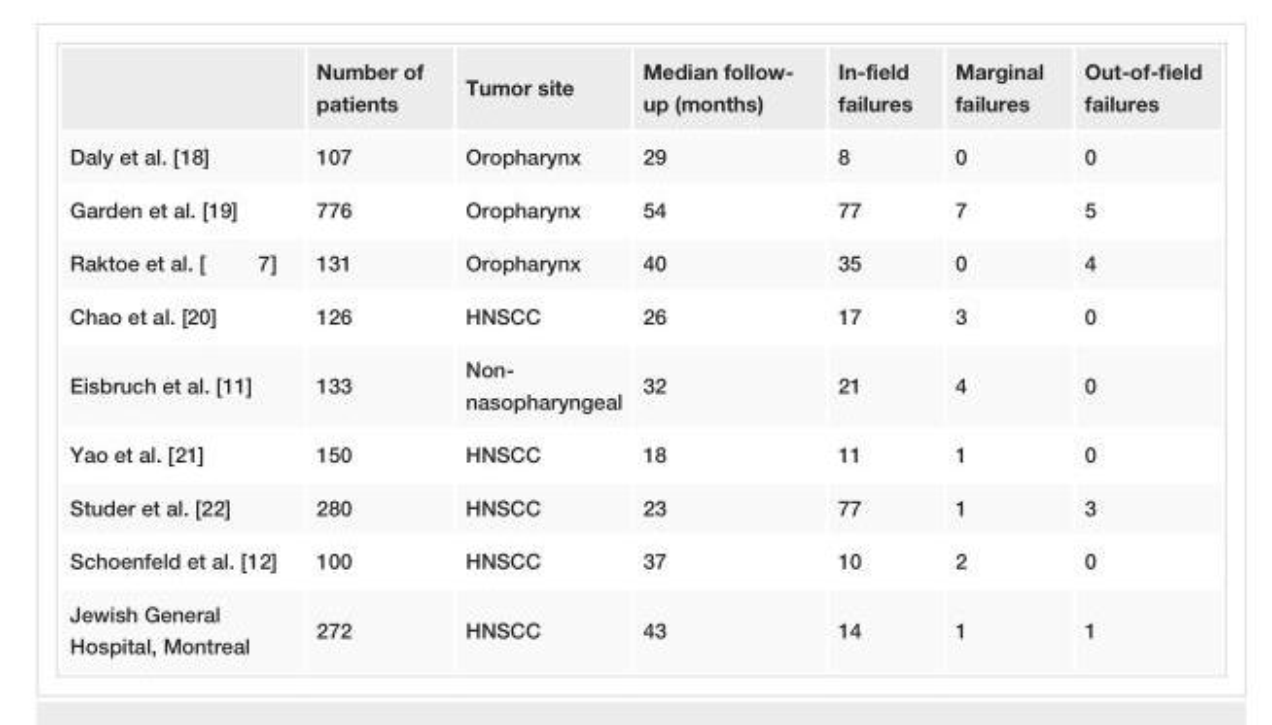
<table><thead><tr><td></td><td>Number of patients</td><td>Tumor site</td><td>Median follow- up (months)</td><td>In-field failures</td><td>Marginal failures</td><td>Out-of-field failures</td></tr></thead><tbody><tr><td>Daly et al. [18]</td><td>107</td><td>Oropharynx</td><td>29</td><td>8</td><td>0</td><td>0</td></tr><tr><td>Garden et al. [19]</td><td>776</td><td>Oropharynx</td><td>54</td><td>77</td><td>7</td><td>5</td></tr><tr><td>Raktoe et al. [7]</td><td>131</td><td>Oropharynx</td><td>40</td><td>35</td><td>0</td><td>4</td></tr><tr><td>Chao et al. [20]</td><td>126</td><td>HNSCC</td><td>26</td><td>17</td><td>3</td><td>0</td></tr><tr><td>Eisbruch et al. [11]</td><td>133</td><td>Non- nasopharyngeal</td><td>32</td><td>21</td><td>4</td><td>0</td></tr><tr><td>Yao et al. [21]</td><td>150</td><td>HNSCC</td><td>18</td><td>11</td><td>1</td><td>0</td></tr><tr><td>Studer et al. [22]</td><td>280</td><td>HNSCC</td><td>23</td><td>77</td><td>1</td><td>3</td></tr><tr><td>Schoenfeld et al. [12]</td><td>100</td><td>HNSCC</td><td>37</td><td>10</td><td>2</td><td>0</td></tr><tr><td>Jewish General Hospital, Montreal</td><td>272</td><td>HNSCC</td><td>43</td><td>14</td><td>1</td><td>1</td></tr></tbody></table>